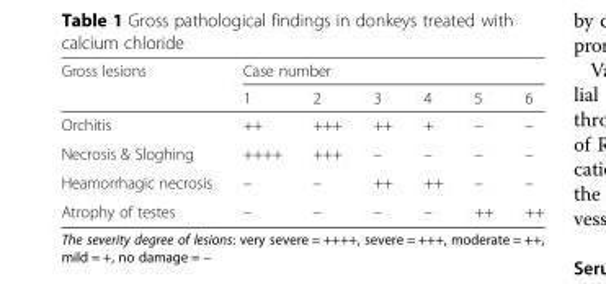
<table><thead><tr><td rowspan="2">Gross lesions</td><td colspan="6">Case number</td></tr><tr><td>1</td><td>2</td><td>3</td><td>4</td><td>5</td><td>6</td></tr></thead><tbody><tr><td>Orchitis</td><td>++</td><td>+++</td><td>++</td><td>+</td><td>–</td><td>–</td></tr><tr><td>Necrosis &amp; Sloghing</td><td>++++</td><td>+++</td><td>–</td><td>–</td><td>–</td><td>–</td></tr><tr><td>Heamorrhagic necrosis</td><td>–</td><td>–</td><td>++</td><td>++</td><td>–</td><td>–</td></tr><tr><td>Atrophy of testes</td><td>–</td><td>–</td><td>–</td><td>–</td><td>++</td><td>++</td></tr></tbody></table>